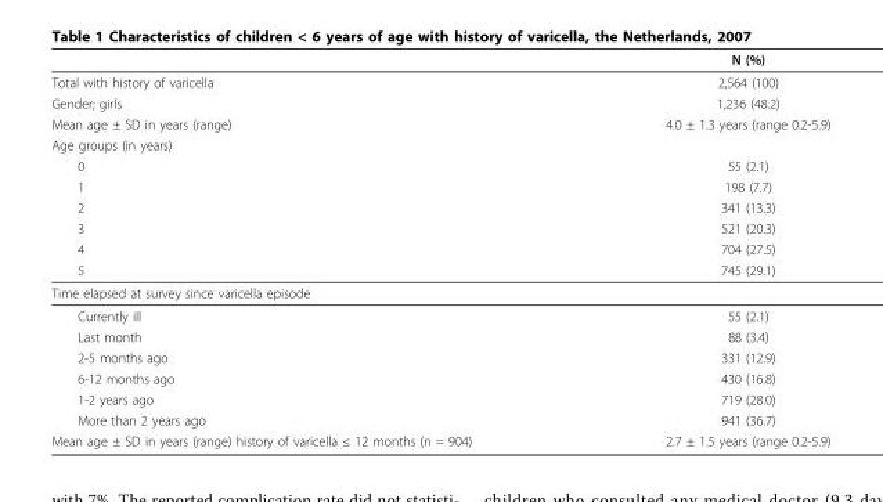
<table><thead><tr><td></td><td>N (%)</td></tr></thead><tbody><tr><td>Total with history of varicella</td><td>2,564 (100)</td></tr><tr><td>Gender; girls</td><td>1,236 (48.2)</td></tr><tr><td>Mean age ± SD in years (range)</td><td>4.0 ± 1.3 years (range 0.2-5.9)</td></tr><tr><td colspan="2">Age groups (in years)</td></tr><tr><td>0</td><td>55 (2.1)</td></tr><tr><td>1</td><td>198 (7.7)</td></tr><tr><td>2</td><td>341 (13.3)</td></tr><tr><td>3</td><td>521 (20.3)</td></tr><tr><td>4</td><td>704 (27.5)</td></tr><tr><td>5</td><td>745 (29.1)</td></tr><tr><td colspan="2">Time elapsed at survey since varicella episode</td></tr><tr><td>Currently ill</td><td>55 (2.1)</td></tr><tr><td>Last month</td><td>88 (3.4)</td></tr><tr><td>2-5 months ago</td><td>331 (12.9)</td></tr><tr><td>6-12 months ago</td><td>430 (16.8)</td></tr><tr><td>1-2 years ago</td><td>719 (28.0)</td></tr><tr><td>More than 2 years ago</td><td>941 (36.7)</td></tr><tr><td>Mean age ± SD in years (range) history of varicella ≤ 12 months (n = 904)</td><td>2.7 ± 1.5 years (range 0.2-5.9)</td></tr></tbody></table>